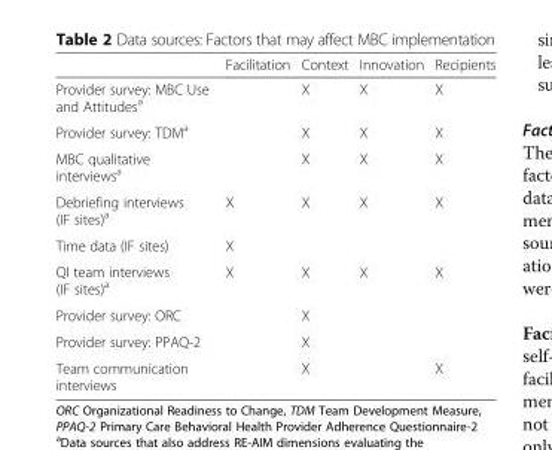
<table><thead><tr><td></td><td>Facilitation</td><td>Context</td><td>Innovation</td><td>Recipients</td></tr></thead><tbody><tr><td>Provider survey: MBC Use and Attitudes<sup>a</sup></td><td></td><td>X</td><td>X</td><td>X</td></tr><tr><td>Provider survey: TDM<sup>a</sup></td><td></td><td>X</td><td>X</td><td>X</td></tr><tr><td>MBC qualitative interviews<sup>a</sup></td><td></td><td>X</td><td>X</td><td>X</td></tr><tr><td>Debriefing interviews (IF sites)<sup>a</sup></td><td>X</td><td>X</td><td>X</td><td>X</td></tr><tr><td>Time data (IF sites)</td><td>X</td><td></td><td></td><td></td></tr><tr><td>QI team interviews (IF sites)<sup>a</sup></td><td>X</td><td>X</td><td>X</td><td>X</td></tr><tr><td>Provider survey: ORC</td><td></td><td>X</td><td></td><td></td></tr><tr><td>Provider survey: PPAQ-2</td><td></td><td>X</td><td></td><td></td></tr><tr><td>Team communication interviews</td><td></td><td>X</td><td></td><td>X</td></tr></tbody></table>